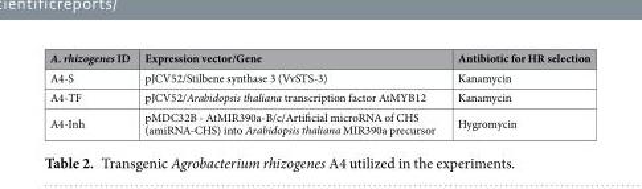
<table><thead><tr><td>A. rhizogenes ID</td><td>Expression vector/Gene</td><td>Antibiotic for HR selection</td></tr></thead><tbody><tr><td>A4-S</td><td>pJCV52/Stilbene synthase 3 (VvSTS-3)</td><td>Kanamycin</td></tr><tr><td>A4-TF</td><td>pJCV52/Arabidopsis thaliana transcription factor AtMYB12</td><td>Kanamycin</td></tr><tr><td>A4-Inh</td><td>pMDC32B - AtMIR390a-B/c/Artificial microRNA of CHS (amiRNA-CHS) into Arabidopsis thaliana MIR390a precursor</td><td>Hygromycin</td></tr></tbody></table>